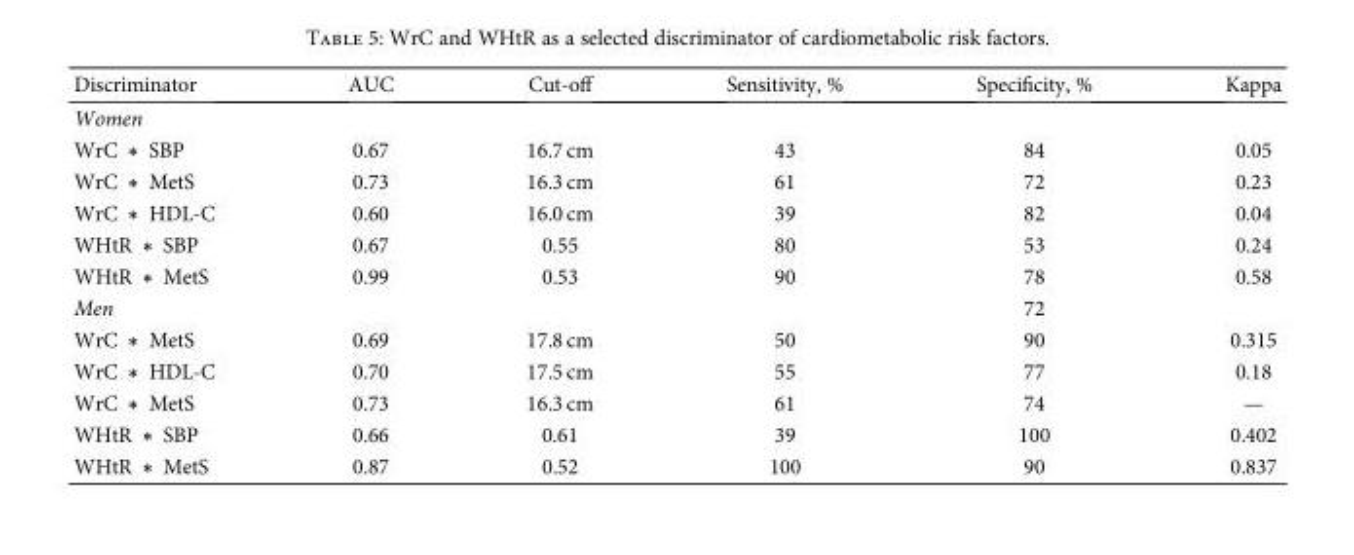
<table><thead><tr><td>Discriminator</td><td>AUC</td><td>Cut-off</td><td>Sensitivity, %</td><td>Specificity, %</td><td>Kappa</td></tr></thead><tbody><tr><td colspan="6">Women</td></tr><tr><td>WrC ∗ SBP</td><td>0.67</td><td>16.7 cm</td><td>43</td><td>84</td><td>0.05</td></tr><tr><td>WrC ∗ MetS</td><td>0.73</td><td>16.3 cm</td><td>61</td><td>72</td><td>0.23</td></tr><tr><td>WrC ∗ HDL-C</td><td>0.60</td><td>16.0 cm</td><td>39</td><td>82</td><td>0.04</td></tr><tr><td>WHtR ∗ SBP</td><td>0.67</td><td>0.55</td><td>80</td><td>53</td><td>0.24</td></tr><tr><td>WHtR ∗ MetS</td><td>0.99</td><td>0.53</td><td>90</td><td>78</td><td>0.58</td></tr><tr><td>Men</td><td></td><td></td><td></td><td>72</td><td></td></tr><tr><td>WrC ∗ MetS</td><td>0.69</td><td>17.8 cm</td><td>50</td><td>90</td><td>0.315</td></tr><tr><td>WrC ∗ HDL-C</td><td>0.70</td><td>17.5 cm</td><td>55</td><td>77</td><td>0.18</td></tr><tr><td>WrC ∗ MetS</td><td>0.73</td><td>16.3 cm</td><td>61</td><td>74</td><td>—</td></tr><tr><td>WHtR ∗ SBP</td><td>0.66</td><td>0.61</td><td>39</td><td>100</td><td>0.402</td></tr><tr><td>WHtR ∗ MetS</td><td>0.87</td><td>0.52</td><td>100</td><td>90</td><td>0.837</td></tr></tbody></table>